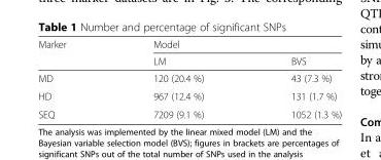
<table><thead><tr><td rowspan="2">Marker</td><td colspan="2">Model</td></tr><tr><td>LM</td><td>BVS</td></tr></thead><tbody><tr><td>MD</td><td>120 (20.4 %)</td><td>43 (7.3 %)</td></tr><tr><td>HD</td><td>967 (12.4 %)</td><td>131 (1.7 %)</td></tr><tr><td>SEQ</td><td>7209 (9.1 %)</td><td>1052 (1.3 %)</td></tr></tbody></table>